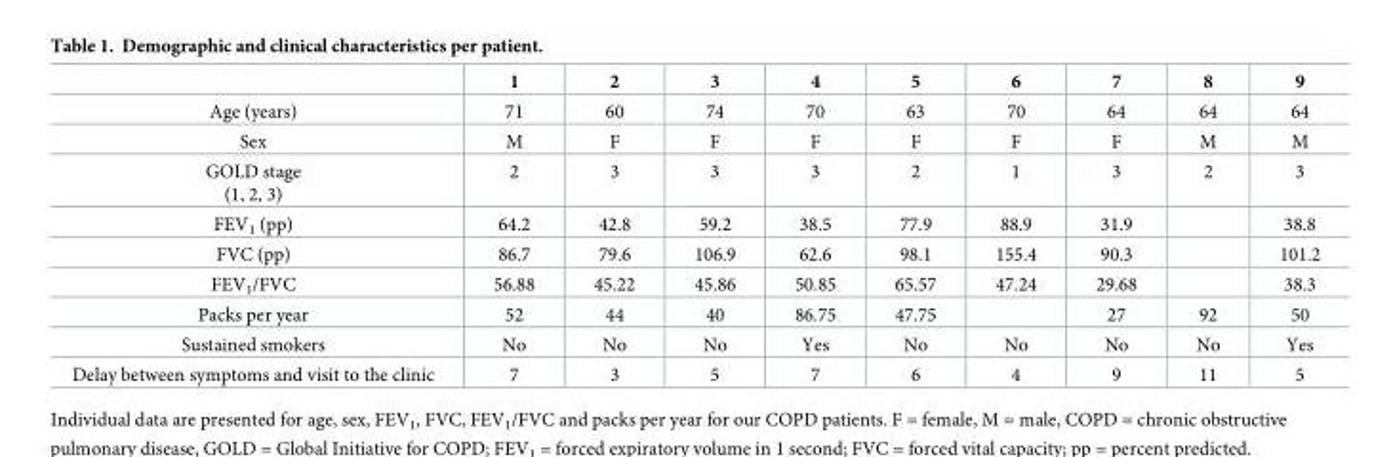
<table><thead><tr><td></td><td>1</td><td>2</td><td>3</td><td>4</td><td>5</td><td>6</td><td>7</td><td>8</td><td>9</td></tr></thead><tbody><tr><td>Age (years)</td><td>71</td><td>60</td><td>74</td><td>70</td><td>63</td><td>70</td><td>64</td><td>64</td><td>64</td></tr><tr><td>Sex</td><td>M</td><td>F</td><td>F</td><td>F</td><td>F</td><td>F</td><td>F</td><td>M</td><td>M</td></tr><tr><td>GOLD stage (1, 2, 3)</td><td>2</td><td>3</td><td>3</td><td>3</td><td>2</td><td>1</td><td>3</td><td>2</td><td>3</td></tr><tr><td>FEV<sub>1</sub> (pp)</td><td>64.2</td><td>42.8</td><td>59.2</td><td>38.5</td><td>77.9</td><td>88.9</td><td>31.9</td><td></td><td>38.8</td></tr><tr><td>FVC (pp)</td><td>86.7</td><td>79.6</td><td>106.9</td><td>62.6</td><td>98.1</td><td>155.4</td><td>90.3</td><td></td><td>101.2</td></tr><tr><td>FEV<sub>1</sub>/FVC</td><td>56.88</td><td>45.22</td><td>45.86</td><td>50.85</td><td>65.57</td><td>47.24</td><td>29.68</td><td></td><td>38.3</td></tr><tr><td>Packs per year</td><td>52</td><td>44</td><td>40</td><td>86.75</td><td>47.75</td><td></td><td>27</td><td>92</td><td>50</td></tr><tr><td>Sustained smokers</td><td>No</td><td>No</td><td>No</td><td>Yes</td><td>No</td><td>No</td><td>No</td><td>No</td><td>Yes</td></tr><tr><td>Delay between symptoms and visit to the clinic</td><td>7</td><td>3</td><td>5</td><td>7</td><td>6</td><td>4</td><td>9</td><td>11</td><td>5</td></tr></tbody></table>